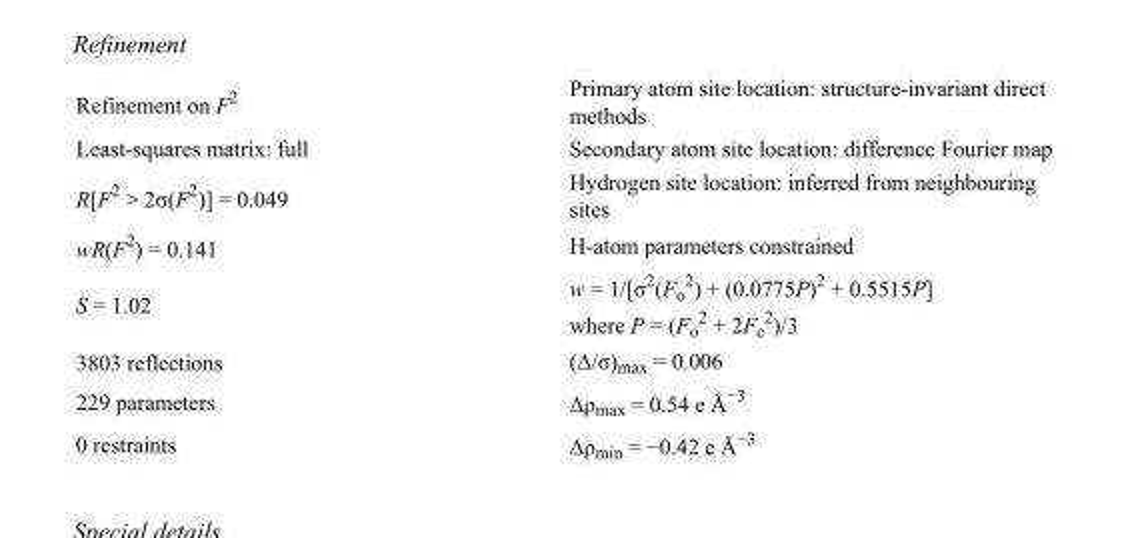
<table><tbody><tr><td>Refinement on F<sup>2</sup></td><td>Primary atom site location: structure-invariant direct methods</td></tr><tr><td>Least-squares matrix: full</td><td>Secondary atom site location: difference Fourier map</td></tr><tr><td>R[F<sup>2</sup> &gt; 2σ(F<sup>2</sup>)] = 0.049</td><td>Hydrogen site location: inferred from neighbouring sites</td></tr><tr><td>wR(F<sup>2</sup>) = 0.141</td><td>H-atom parameters constrained</td></tr><tr><td>S = 1.02</td><td>w = 1/[σ<sup>2</sup>(F<sub>o</sub> <sup>2</sup>) + (0.0775P)<sup>2</sup> + 0.5515P] where P = (F<sub>o</sub> <sup>2</sup> + 2F<sub>c</sub> <sup>2</sup>)/3</td></tr><tr><td>3803 reflections</td><td>(Δ/σ)<sub>max</sub> = 0.006</td></tr><tr><td>229 parameters</td><td>Δρ<sub>max</sub> = 0.54 e Å<sup>−3</sup></td></tr><tr><td>0 restraints</td><td>Δρ<sub>min</sub> = −0.42 e Å<sup>−3</sup></td></tr></tbody></table>